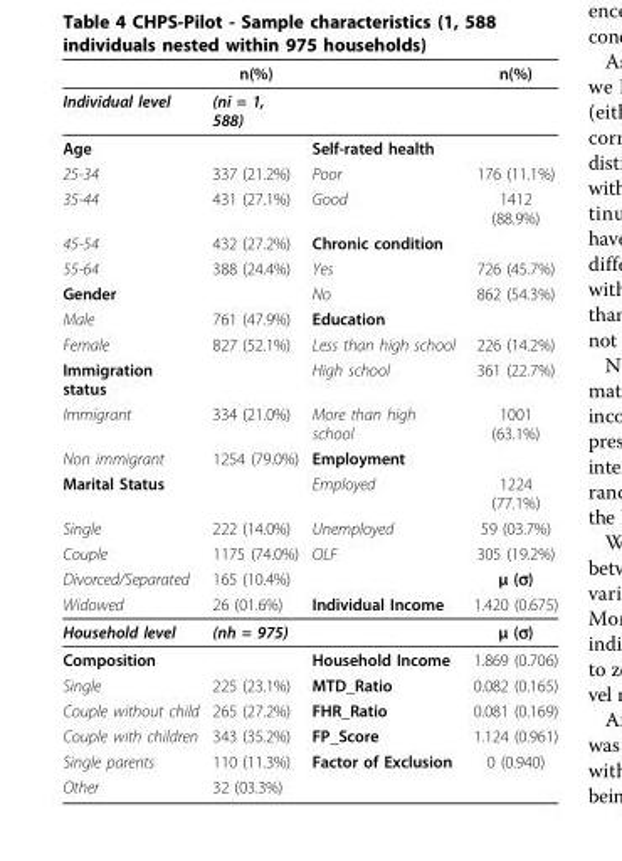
<table><thead><tr><td></td><td>n(%)</td><td></td><td>n(%)</td></tr></thead><tbody><tr><td>Individual level</td><td>(ni = 1, 588)</td><td></td><td></td></tr><tr><td>Age</td><td></td><td>Self-rated health</td><td></td></tr><tr><td>25-34</td><td>337 (21.2%)</td><td>Poor</td><td>176 (11.1%)</td></tr><tr><td>35-44</td><td>431 (27.1%)</td><td>Good</td><td>1412 (88.9%)</td></tr><tr><td>45-54</td><td>432 (27.2%)</td><td>Chronic condition</td><td></td></tr><tr><td>55-64</td><td>388 (24.4%)</td><td>Yes</td><td>726 (45.7%)</td></tr><tr><td>Gender</td><td></td><td>No</td><td>862 (54.3%)</td></tr><tr><td>Male</td><td>761 (47.9%)</td><td>Education</td><td></td></tr><tr><td>Female</td><td>827 (52.1%)</td><td>Less than high school</td><td>226 (14.2%)</td></tr><tr><td>Immigration status</td><td></td><td>High school</td><td>361 (22.7%)</td></tr><tr><td>Immigrant</td><td>334 (21.0%)</td><td>More than high school</td><td>1001 (63.1%)</td></tr><tr><td>Non immigrant</td><td>1254 (79.0%)</td><td>Employment</td><td></td></tr><tr><td>Marital Status</td><td></td><td>Employed</td><td>1224 (77.1%)</td></tr><tr><td>Single</td><td>222 (14.0%)</td><td>Unemployed</td><td>59 (03.7%)</td></tr><tr><td>Couple</td><td>1175 (74.0%)</td><td>OLF</td><td>305 (19.2%)</td></tr><tr><td>Divorced/Separated</td><td>165 (10.4%)</td><td></td><td>μ (σ)</td></tr><tr><td>Widowed</td><td>26 (01.6%)</td><td>Individual Income</td><td>1.420 (0.675)</td></tr><tr><td>Household level</td><td>(nh = 975)</td><td></td><td>μ (σ)</td></tr><tr><td>Composition</td><td></td><td>Household Income</td><td>1.869 (0.706)</td></tr><tr><td>Single</td><td>225 (23.1%)</td><td>MTD_Ratio</td><td>0.082 (0.165)</td></tr><tr><td>Couple without child</td><td>265 (27.2%)</td><td>FHR_Ratio</td><td>0.081 (0.169)</td></tr><tr><td>Couple with children</td><td>343 (35.2%)</td><td>FP_Score</td><td>1.124 (0.961)</td></tr><tr><td>Single parents</td><td>110 (11.3%)</td><td>Factor of Exclusion</td><td>0 (0.940)</td></tr><tr><td>Other</td><td>32 (03.3%)</td><td></td><td></td></tr></tbody></table>